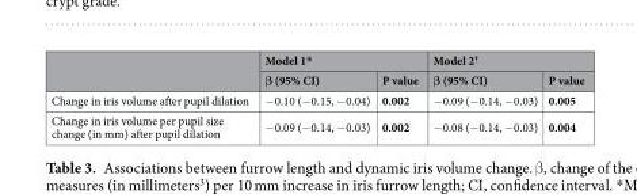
<table><thead><tr><td rowspan="2"></td><td colspan="2">Model 1*</td><td colspan="2">Model 2<sup>†</sup></td></tr><tr><td>β (95% CI)</td><td>P value</td><td>β (95% CI)</td><td>P value</td></tr></thead><tbody><tr><td>Change in iris volume after pupil dilation</td><td>−0.10 (−0.15, −0.04)</td><td>0.002</td><td>−0.09 (−0.14, −0.03)</td><td>0.005</td></tr><tr><td>Change in iris volume per pupil size change (in mm) after pupil dilation</td><td>−0.09 (−0.14, −0.03)</td><td>0.002</td><td>−0.08 (−0.14, −0.03)</td><td>0.004</td></tr></tbody></table>